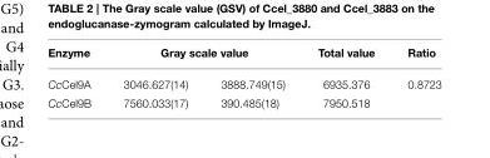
<table><thead><tr><td rowspan="2">Enzyme CcCel9A</td><td colspan="2">Gray scale value</td><td rowspan="2">Total value 6935.376</td><td rowspan="2">Ratio 0.8723</td></tr><tr><td>3046.627(14)</td><td>3888.749(15)</td></tr></thead><tbody><tr><td>CcCel9B</td><td>7560.033(17)</td><td>390.485(18)</td><td>7950.518</td><td></td></tr></tbody></table>